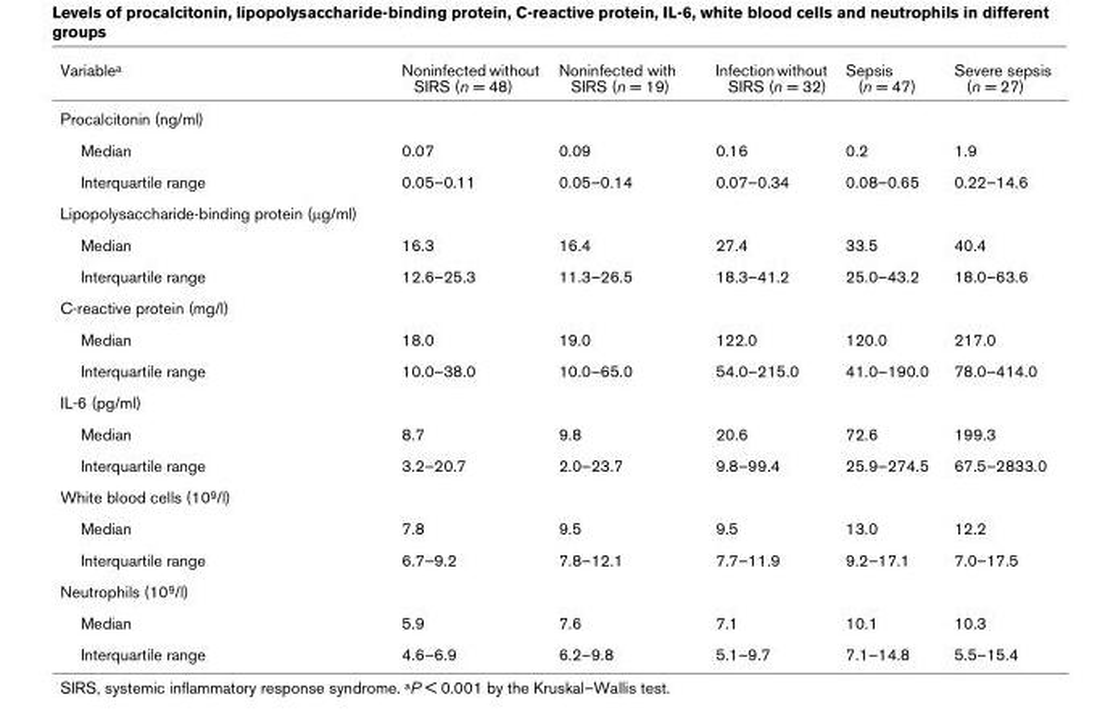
<table><thead><tr><td>Variablea</td><td>Noninfected without SIRS (n = 48)</td><td>Noninfected with SIRS (n = 19)</td><td>Infection without SIRS (n = 32)</td><td>Sepsis (n = 47)</td><td>Severe sepsis (n = 27)</td></tr></thead><tbody><tr><td colspan="6">Procalcitonin (ng/ml)</td></tr><tr><td>Median</td><td>0.07</td><td>0.09</td><td>0.16</td><td>0.2</td><td>1.9</td></tr><tr><td>Interquartile range</td><td>0.05–0.11</td><td>0.05–0.14</td><td>0.07–0.34</td><td>0.08–0.65</td><td>0.22–14.6</td></tr><tr><td colspan="6">Lipopolysaccharide-binding protein (µg/ml)</td></tr><tr><td>Median</td><td>16.3</td><td>16.4</td><td>27.4</td><td>33.5</td><td>40.4</td></tr><tr><td>Interquartile range</td><td>12.6–25.3</td><td>11.3–26.5</td><td>18.3–41.2</td><td>25.0–43.2</td><td>18.0–63.6</td></tr><tr><td colspan="6">C-reactive protein (mg/l)</td></tr><tr><td>Median</td><td>18.0</td><td>19.0</td><td>122.0</td><td>120.0</td><td>217.0</td></tr><tr><td>Interquartile range</td><td>10.0–38.0</td><td>10.0–65.0</td><td>54.0–215.0</td><td>41.0–190.0</td><td>78.0–414.0</td></tr><tr><td colspan="6">IL-6 (pg/ml)</td></tr><tr><td>Median</td><td>8.7</td><td>9.8</td><td>20.6</td><td>72.6</td><td>199.3</td></tr><tr><td>Interquartile range</td><td>3.2–20.7</td><td>2.0–23.7</td><td>9.8–99.4</td><td>25.9–274.5</td><td>67.5–2833.0</td></tr><tr><td colspan="6">White blood cells (109/l)</td></tr><tr><td>Median</td><td>7.8</td><td>9.5</td><td>9.5</td><td>13.0</td><td>12.2</td></tr><tr><td>Interquartile range</td><td>6.7–9.2</td><td>7.8–12.1</td><td>7.7–11.9</td><td>9.2–17.1</td><td>7.0–17.5</td></tr><tr><td colspan="6">Neutrophils (109/l)</td></tr><tr><td>Median</td><td>5.9</td><td>7.6</td><td>7.1</td><td>10.1</td><td>10.3</td></tr><tr><td>Interquartile range</td><td>4.6–6.9</td><td>6.2–9.8</td><td>5.1–9.7</td><td>7.1–14.8</td><td>5.5–15.4</td></tr></tbody></table>